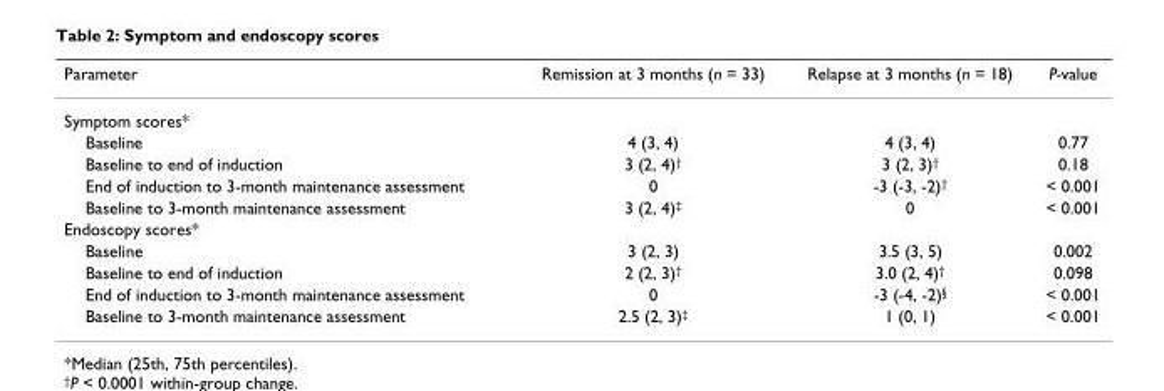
<table><thead><tr><td>Parameter</td><td>Remission at 3 months (n = 33)</td><td>Relapse at 3 months (n = 18)</td><td>P-value</td></tr></thead><tbody><tr><td colspan="4">Symptom scores*</td></tr><tr><td>Baseline</td><td>4 (3, 4)</td><td>4 (3, 4)</td><td>0.77</td></tr><tr><td>Baseline to end of induction</td><td>3 (2, 4)<sup>†</sup></td><td>3 (2, 3)<sup>†</sup></td><td>0.18</td></tr><tr><td>End of induction to 3-month maintenance assessment</td><td>0</td><td>-3 (-3, -2)<sup>†</sup></td><td>&lt; 0.001</td></tr><tr><td>Baseline to 3-month maintenance assessment</td><td>3 (2, 4)<sup>‡</sup></td><td>0</td><td>&lt; 0.001</td></tr><tr><td colspan="4">Endoscopy scores*</td></tr><tr><td>Baseline</td><td>3 (2, 3)</td><td>3.5 (3, 5)</td><td>0.002</td></tr><tr><td>Baseline to end of induction</td><td>2 (2, 3)<sup>†</sup></td><td>3.0 (2, 4)<sup>†</sup></td><td>0.098</td></tr><tr><td>End of induction to 3-month maintenance assessment</td><td>0</td><td>-3 (-4, -2)<sup>§</sup></td><td>&lt; 0.001</td></tr><tr><td>Baseline to 3-month maintenance assessment</td><td>2.5 (2, 3)<sup>‡</sup></td><td>1 (0, 1)</td><td>&lt; 0.001</td></tr></tbody></table>